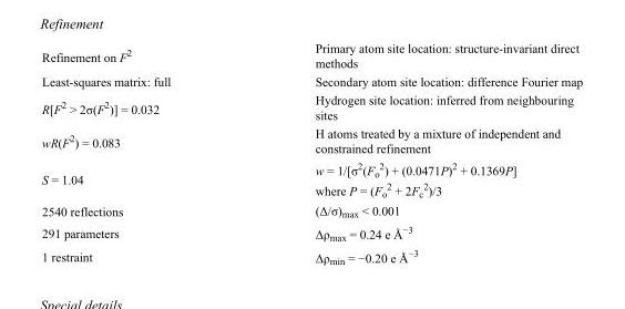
<table><tbody><tr><td>Refinement on F<sup>2</sup></td><td>Primary atom site location: structure-invariant direct methods</td></tr><tr><td>Least-squares matrix: full</td><td>Secondary atom site location: difference Fourier map</td></tr><tr><td>R[F<sup>2</sup> &gt; 2σ(F<sup>2</sup>)] = 0.032</td><td>Hydrogen site location: inferred from neighbouring sites</td></tr><tr><td>wR(F<sup>2</sup>) = 0.083</td><td>H atoms treated by a mixture of independent and constrained refinement</td></tr><tr><td>S = 1.04</td><td>w = 1/[σ<sup>2</sup>(F<sub>o</sub> <sup>2</sup>) + (0.0471P)<sup>2</sup> + 0.1369P] where P = (F<sub>o</sub> <sup>2</sup> + 2F<sub>c</sub> <sup>2</sup>)/3</td></tr><tr><td>2540 reflections</td><td>(Δ/σ)<sub>max</sub> &lt; 0.001</td></tr><tr><td>291 parameters</td><td>Δρ<sub>max</sub> = 0.24 e Å<sup>−3</sup></td></tr><tr><td>1 restraint</td><td>Δρ<sub>min</sub> = −0.20 e Å<sup>−3</sup></td></tr></tbody></table>